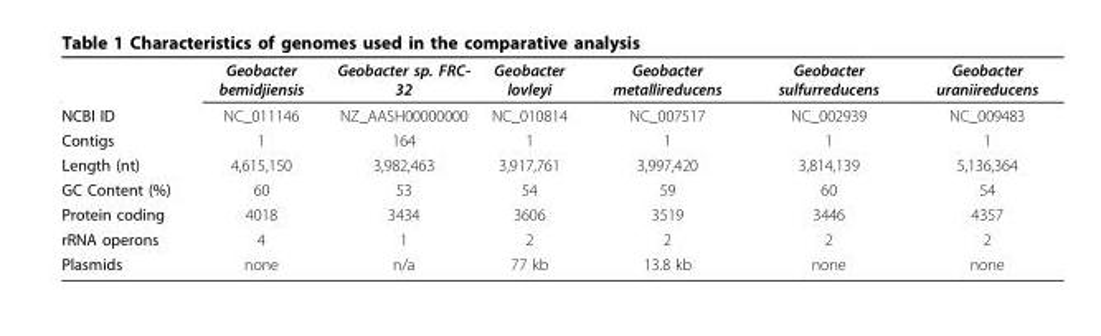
<table><thead><tr><td></td><td>Geobacter bemidjiensis</td><td>Geobacter sp. FRC- 32</td><td>Geobacter lovleyi</td><td>Geobacter metallireducens</td><td>Geobacter sulfurreducens</td><td>Geobacter uraniireducens</td></tr></thead><tbody><tr><td>NCBI ID</td><td>NC_011146</td><td>NZ_AASH00000000</td><td>NC_010814</td><td>NC_007517</td><td>NC_002939</td><td>NC_009483</td></tr><tr><td>Contigs</td><td>1</td><td>164</td><td>1</td><td>1</td><td>1</td><td>1</td></tr><tr><td>Length (nt)</td><td>4,615,150</td><td>3,982,463</td><td>3,917,761</td><td>3,997,420</td><td>3,814,139</td><td>5,136,364</td></tr><tr><td>GC Content (%)</td><td>60</td><td>53</td><td>54</td><td>59</td><td>60</td><td>54</td></tr><tr><td>Protein coding</td><td>4018</td><td>3434</td><td>3606</td><td>3519</td><td>3446</td><td>4357</td></tr><tr><td>rRNA operons</td><td>4</td><td>1</td><td>2</td><td>2</td><td>2</td><td>2</td></tr><tr><td>Plasmids</td><td>none</td><td>n/a</td><td>77 kb</td><td>13.8 kb</td><td>none</td><td>none</td></tr></tbody></table>